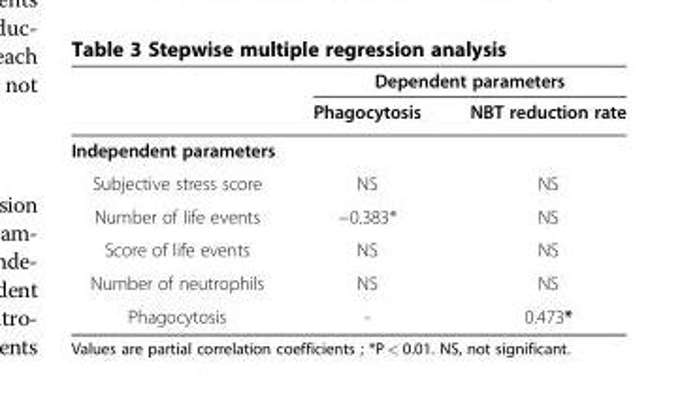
<table><thead><tr><td rowspan="2"></td><td colspan="2">Dependent parameters</td></tr><tr><td>Phagocytosis</td><td>NBT reduction rate</td></tr></thead><tbody><tr><td colspan="3">Independent parameters</td></tr><tr><td>Subjective stress score</td><td>NS</td><td>NS</td></tr><tr><td>Number of life events</td><td>−0.383*</td><td>NS</td></tr><tr><td>Score of life events</td><td>NS</td><td>NS</td></tr><tr><td>Number of neutrophils</td><td>NS</td><td>NS</td></tr><tr><td>Phagocytosis</td><td>-</td><td>0.473*</td></tr></tbody></table>